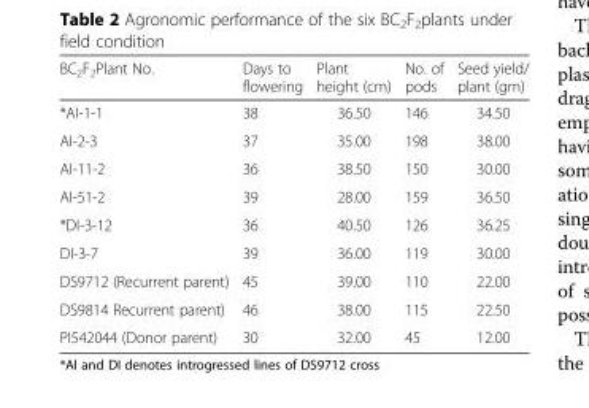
<table><thead><tr><td>BC<sub>2</sub>F<sub>2</sub>Plant No.</td><td>Days to flowering</td><td>Plant height (cm)</td><td>No. of pods</td><td>Seed yield/ plant (gm)</td></tr></thead><tbody><tr><td>*AI-1-1</td><td>38</td><td>36.50</td><td>146</td><td>34.50</td></tr><tr><td>AI-2-3</td><td>37</td><td>35.00</td><td>198</td><td>38.00</td></tr><tr><td>AI-11-2</td><td>36</td><td>38.50</td><td>150</td><td>30.00</td></tr><tr><td>AI-51-2</td><td>39</td><td>28.00</td><td>159</td><td>36.50</td></tr><tr><td>*DI-3-12</td><td>36</td><td>40.50</td><td>126</td><td>36.25</td></tr><tr><td>DI-3-7</td><td>39</td><td>36.00</td><td>119</td><td>30.00</td></tr><tr><td>DS9712 (Recurrent parent)</td><td>45</td><td>39.00</td><td>110</td><td>22.00</td></tr><tr><td>DS9814 Recurrent parent)</td><td>46</td><td>38.00</td><td>115</td><td>22.50</td></tr><tr><td>PI542044 (Donor parent)</td><td>30</td><td>32.00</td><td>45</td><td>12.00</td></tr></tbody></table>